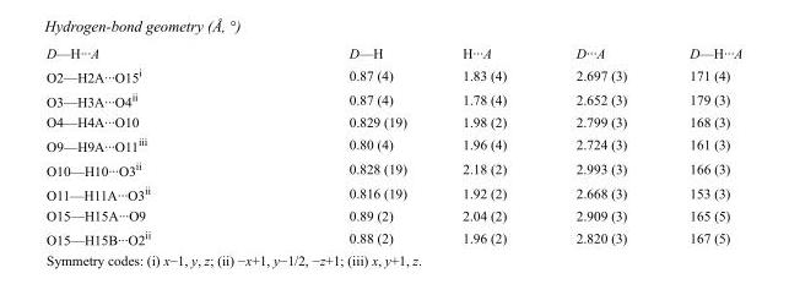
<table><tbody><tr><td>D—H···A</td><td>D—H</td><td>H···A</td><td>D···A</td><td>D—H···A</td></tr><tr><td>O2—H2A···O15<sup>i</sup></td><td>0.87 (4)</td><td>1.83 (4)</td><td>2.697 (3)</td><td>171 (4)</td></tr><tr><td>O3—H3A···O4<sup>ii</sup></td><td>0.87 (4)</td><td>1.78 (4)</td><td>2.652 (3)</td><td>179 (3)</td></tr><tr><td>O4—H4A···O10</td><td>0.829 (19)</td><td>1.98 (2)</td><td>2.799 (3)</td><td>168 (3)</td></tr><tr><td>O9—H9A···O11<sup>iii</sup></td><td>0.80 (4)</td><td>1.96 (4)</td><td>2.724 (3)</td><td>161 (3)</td></tr><tr><td>O10—H10···O3<sup>ii</sup></td><td>0.828 (19)</td><td>2.18 (2)</td><td>2.993 (3)</td><td>166 (3)</td></tr><tr><td>O11—H11A···O3<sup>ii</sup></td><td>0.816 (19)</td><td>1.92 (2)</td><td>2.668 (3)</td><td>153 (3)</td></tr><tr><td>O15—H15A···O9</td><td>0.89 (2)</td><td>2.04 (2)</td><td>2.909 (3)</td><td>165 (5)</td></tr><tr><td>O15—H15B···O2<sup>ii</sup></td><td>0.88 (2)</td><td>1.96 (2)</td><td>2.820 (3)</td><td>167 (5)</td></tr></tbody></table>